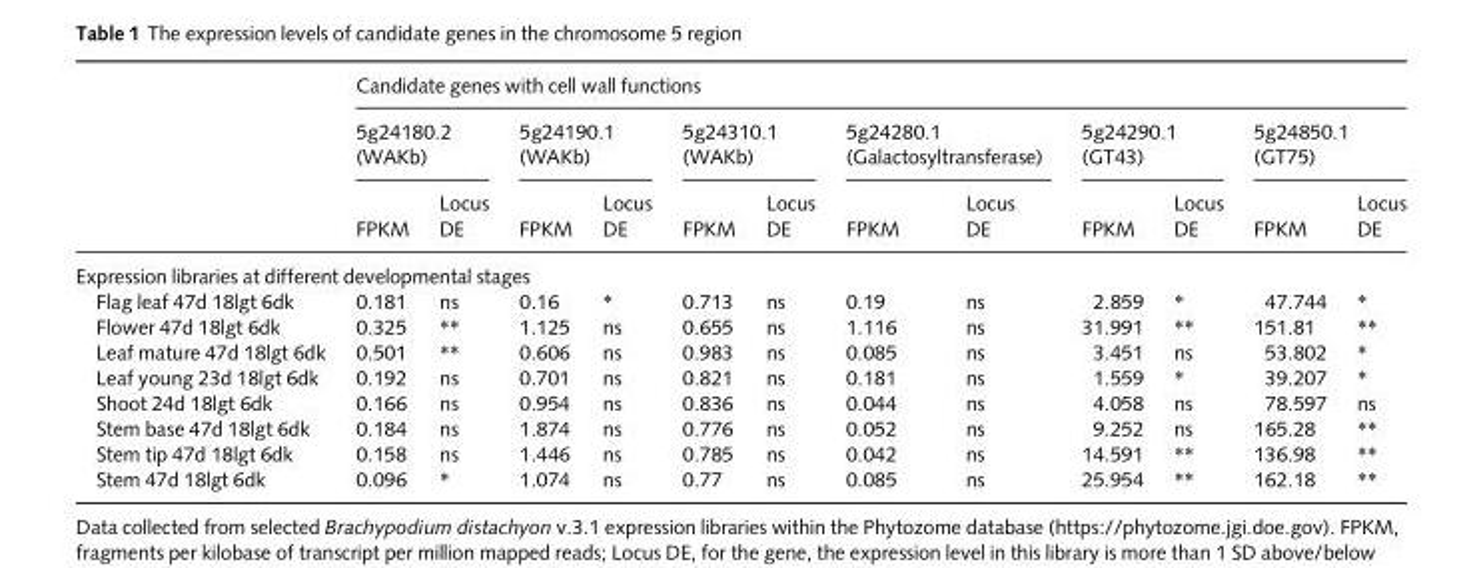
<table><thead><tr><td rowspan="3"></td><td colspan="12">Candidate genes with cell wall functions</td></tr><tr><td colspan="2">5g24180.2 (WAKb)</td><td colspan="2">5g24190.1 (WAKb)</td><td colspan="2">5g24310.1 (WAKb)</td><td colspan="2">5g24280.1 (Galactosyltransferase)</td><td colspan="2">5g24290.1 (GT43)</td><td colspan="2">5g24850.1 (GT75)</td></tr><tr><td>FPKM</td><td>Locus DE</td><td>FPKM</td><td>Locus DE</td><td>FPKM</td><td>Locus DE</td><td>FPKM</td><td>Locus DE</td><td>FPKM</td><td>Locus DE</td><td>FPKM</td><td>Locus DE</td></tr></thead><tbody><tr><td colspan="13">Expression libraries at different developmental stages</td></tr><tr><td>Flag leaf 47d 18lgt 6dk</td><td>0.181</td><td>ns</td><td>0.16</td><td>*</td><td>0.713</td><td>ns</td><td>0.19</td><td>ns</td><td>2.859</td><td>*</td><td>47.744</td><td>*</td></tr><tr><td>Flower 47d 18lgt 6dk</td><td>0.325</td><td>**</td><td>1.125</td><td>ns</td><td>0.655</td><td>ns</td><td>1.116</td><td>ns</td><td>31.991</td><td>**</td><td>151.81</td><td>**</td></tr><tr><td>Leaf mature 47d 18lgt 6dk</td><td>0.501</td><td>**</td><td>0.606</td><td>ns</td><td>0.983</td><td>ns</td><td>0.085</td><td>ns</td><td>3.451</td><td>ns</td><td>53.802</td><td>*</td></tr><tr><td>Leaf young 23d 18lgt 6dk</td><td>0.192</td><td>ns</td><td>0.701</td><td>ns</td><td>0.821</td><td>ns</td><td>0.181</td><td>ns</td><td>1.559</td><td>*</td><td>39.207</td><td>*</td></tr><tr><td>Shoot 24d 18lgt 6dk</td><td>0.166</td><td>ns</td><td>0.954</td><td>ns</td><td>0.836</td><td>ns</td><td>0.044</td><td>ns</td><td>4.058</td><td>ns</td><td>78.597</td><td>ns</td></tr><tr><td>Stem base 47d 18lgt 6dk</td><td>0.184</td><td>ns</td><td>1.874</td><td>ns</td><td>0.776</td><td>ns</td><td>0.052</td><td>ns</td><td>9.252</td><td>ns</td><td>165.28</td><td>**</td></tr><tr><td>Stem tip 47d 18lgt 6dk</td><td>0.158</td><td>ns</td><td>1.446</td><td>ns</td><td>0.785</td><td>ns</td><td>0.042</td><td>ns</td><td>14.591</td><td>**</td><td>136.98</td><td>**</td></tr><tr><td>Stem 47d 18lgt 6dk</td><td>0.096</td><td>*</td><td>1.074</td><td>ns</td><td>0.77</td><td>ns</td><td>0.085</td><td>ns</td><td>25.954</td><td>**</td><td>162.18</td><td>**</td></tr></tbody></table>